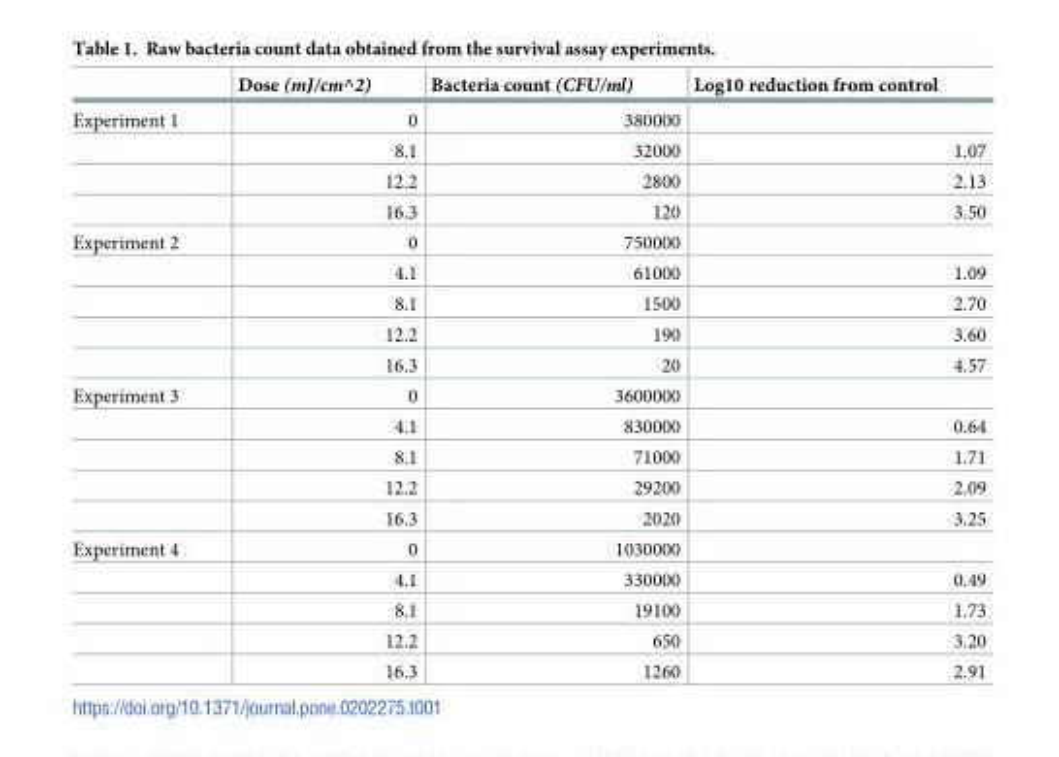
<table><thead><tr><td></td><td>Dose (mJ/cm^2)</td><td>Bacteria count (CFU/ml)</td><td>Log10 reduction from control</td></tr></thead><tbody><tr><td rowspan="4">Experiment 1</td><td>0</td><td>380000</td><td></td></tr><tr><td>8.1</td><td>32000</td><td>1.07</td></tr><tr><td>12.2</td><td>2800</td><td>2.13</td></tr><tr><td>16.3</td><td>120</td><td>3.50</td></tr><tr><td rowspan="5">Experiment 2</td><td>0</td><td>750000</td><td></td></tr><tr><td>4.1</td><td>61000</td><td>1.09</td></tr><tr><td>8.1</td><td>1500</td><td>2.70</td></tr><tr><td>12.2</td><td>190</td><td>3.60</td></tr><tr><td>16.3</td><td>20</td><td>4.57</td></tr><tr><td rowspan="5">Experiment 3</td><td>0</td><td>3600000</td><td></td></tr><tr><td>4.1</td><td>830000</td><td>0.64</td></tr><tr><td>8.1</td><td>71000</td><td>1.71</td></tr><tr><td>12.2</td><td>29200</td><td>2.09</td></tr><tr><td>16.3</td><td>2020</td><td>3.25</td></tr><tr><td rowspan="5">Experiment 4</td><td>0</td><td>1030000</td><td></td></tr><tr><td>4.1</td><td>330000</td><td>0.49</td></tr><tr><td>8.1</td><td>19100</td><td>1.73</td></tr><tr><td>12.2</td><td>650</td><td>3.20</td></tr><tr><td>16.3</td><td>1260</td><td>2.91</td></tr></tbody></table>